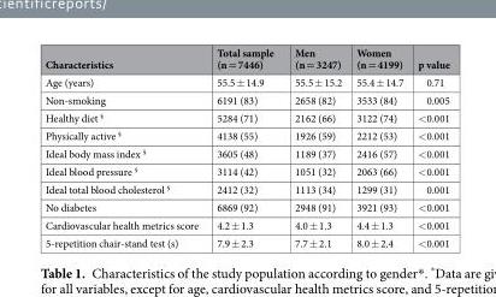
<table><thead><tr><td>Characteristics</td><td>Total sample (n = 7446)</td><td>Men (n = 3247)</td><td>Women (n = 4199)</td><td>p value</td></tr></thead><tbody><tr><td>Age (years)</td><td>55.5 ± 14.9</td><td>55.5 ± 15.2</td><td>55.4 ± 14.7</td><td>0.71</td></tr><tr><td>Non-smoking</td><td>6191 (83)</td><td>2658 (82)</td><td>3533 (84)</td><td>0.005</td></tr><tr><td>Healthy diet <sup>§</sup></td><td>5284 (71)</td><td>2162 (66)</td><td>3122 (74)</td><td>&lt;0.001</td></tr><tr><td>Physically active <sup>§</sup></td><td>4138 (55)</td><td>1926 (59)</td><td>2212 (53)</td><td>&lt;0.001</td></tr><tr><td>Ideal body mass index <sup>§</sup></td><td>3605 (48)</td><td>1189 (37)</td><td>2416 (57)</td><td>&lt;0.001</td></tr><tr><td>Ideal blood pressure <sup>§</sup></td><td>3114 (42)</td><td>1051 (32)</td><td>2063 (66)</td><td>&lt;0.001</td></tr><tr><td>Ideal total blood cholesterol <sup>§</sup></td><td>2412 (32)</td><td>1113 (34)</td><td>1299 (31)</td><td>0.001</td></tr><tr><td>No diabetes</td><td>6869 (92)</td><td>2948 (91)</td><td>3921 (93)</td><td>&lt;0.001</td></tr><tr><td>Cardiovascular health metrics score</td><td>4.2 ± 1.3</td><td>4.0 ± 1.3</td><td>4.4 ± 1.3</td><td>&lt;0.001</td></tr><tr><td>5-repetition chair-stand test (s)</td><td>7.9 ± 2.3</td><td>7.7 ± 2.1</td><td>8.0 ± 2.4</td><td>&lt;0.001</td></tr></tbody></table>